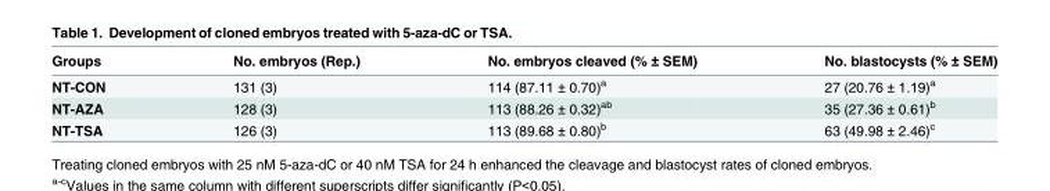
<table><thead><tr><td>Groups</td><td>No. embryos (Rep.)</td><td>No. embryos cleaved (% ± SEM)</td><td>No. blastocysts (% ± SEM)</td></tr></thead><tbody><tr><td>NT-CON</td><td>131 (3)</td><td>114 (87.11 ± 0.70)<sup>a</sup></td><td>27 (20.76 ± 1.19)<sup>a</sup></td></tr><tr><td>NT-AZA</td><td>128 (3)</td><td>113 (88.26 ± 0.32)<sup>ab</sup></td><td>35 (27.36 ± 0.61)<sup>b</sup></td></tr><tr><td>NT-TSA</td><td>126 (3)</td><td>113 (89.68 ± 0.80)<sup>b</sup></td><td>63 (49.98 ± 2.46)<sup>c</sup></td></tr></tbody></table>